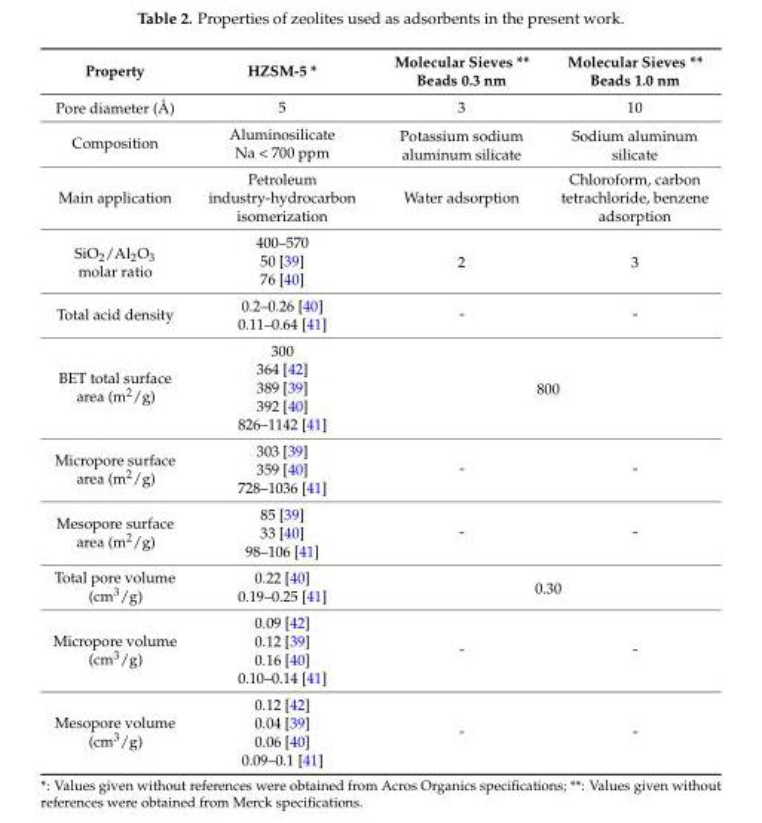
<table><thead><tr><td>Property</td><td>HZSM-5 *</td><td>Molecular Sieves ** Beads 0.3 nm</td><td>Molecular Sieves ** Beads 1.0 nm</td></tr></thead><tbody><tr><td>Pore diameter (Å)</td><td>5</td><td>3</td><td>10</td></tr><tr><td rowspan="2">Composition</td><td>Aluminosilicate</td><td rowspan="2">Potassium sodium aluminum silicate</td><td rowspan="2">Sodium aluminum silicate</td></tr><tr><td>Na &lt; 700 ppm</td></tr><tr><td>Main application</td><td>Petroleum industry-hydrocarbon isomerization</td><td>Water adsorption</td><td>Chloroform, carbon tetrachloride, benzene adsorption</td></tr><tr><td rowspan="3">SiO2/Al2O3 molar ratio</td><td>400–570</td><td rowspan="3">2</td><td rowspan="3">3</td></tr><tr><td>50 [39]</td></tr><tr><td>76 [40]</td></tr><tr><td rowspan="2">Total acid density</td><td>0.2–0.26 [40]</td><td rowspan="2">-</td><td rowspan="2">-</td></tr><tr><td>0.11–0.64 [41]</td></tr><tr><td rowspan="5">BET total surface area (m2/g)</td><td>300</td><td rowspan="5" colspan="2">800</td></tr><tr><td>364 [42]</td></tr><tr><td>389 [39]</td></tr><tr><td>392 [40]</td></tr><tr><td>826–1142 [41]</td></tr><tr><td rowspan="3">Micropore surface area (m2/g)</td><td>303 [39]</td><td rowspan="3">-</td><td rowspan="3">-</td></tr><tr><td>359 [40]</td></tr><tr><td>728–1036 [41]</td></tr><tr><td rowspan="3">Mesopore surface area (m2/g)</td><td>85 [39]</td><td rowspan="3">-</td><td rowspan="3">-</td></tr><tr><td>33 [40]</td></tr><tr><td>98–106 [41]</td></tr><tr><td rowspan="2">Total pore volume (cm3/g)</td><td>0.22 [40]</td><td rowspan="2" colspan="2">0.30</td></tr><tr><td>0.19–0.25 [41]</td></tr><tr><td rowspan="4">Micropore volume (cm3/g)</td><td>0.09 [42]</td><td rowspan="4">-</td><td rowspan="4">-</td></tr><tr><td>0.12 [39]</td></tr><tr><td>0.16 [40]</td></tr><tr><td>0.10–0.14 [41]</td></tr><tr><td rowspan="4">Mesopore volume (cm3/g)</td><td>0.12 [42]</td><td rowspan="4">-</td><td rowspan="4">-</td></tr><tr><td>0.04 [39]</td></tr><tr><td>0.06 [40]</td></tr><tr><td>0.09–0.1 [41]</td></tr></tbody></table>